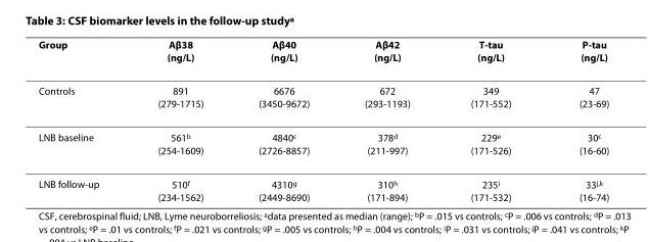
<table><thead><tr><td>Group</td><td>Aβ38 (ng/L)</td><td>Aβ40 (ng/L)</td><td>Aβ42 (ng/L)</td><td>T-tau (ng/L)</td><td>P-tau (ng/L)</td></tr></thead><tbody><tr><td>Controls</td><td>891 (279-1715)</td><td>6676 (3450-9672)</td><td>672 (293-1193)</td><td>349 (171-552)</td><td>47 (23-69)</td></tr><tr><td>LNB baseline</td><td>561<sup>b</sup> (254-1609)</td><td>4840<sup>c</sup> (2726-8857)</td><td>378<sup>d</sup> (211-997)</td><td>229<sup>e</sup> (171-526)</td><td>30<sup>c</sup> (16-60)</td></tr><tr><td>LNB follow-up</td><td>510<sup>f</sup> (234-1562)</td><td>4310<sup>g</sup> (2449-8690)</td><td>310<sup>h</sup> (171-894)</td><td>235<sup>i</sup> (171-532)</td><td>33<sup>j,k</sup> (16-74)</td></tr></tbody></table>